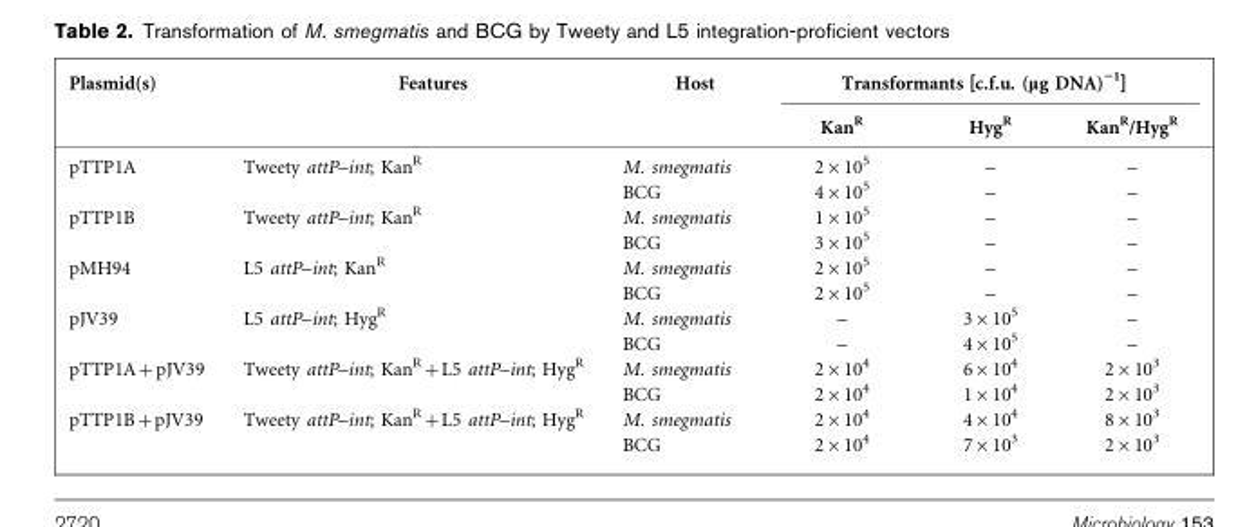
<table><thead><tr><td rowspan="2">Plasmid(s)</td><td rowspan="2">Features</td><td rowspan="2">Host</td><td colspan="3">Transformants [c.f.u. (mg DNA)”1]</td></tr><tr><td>Kan<sup>R</sup></td><td>Hyg<sup>R</sup></td><td>Kan<sup>R</sup>/Hyg<sup>R</sup></td></tr></thead><tbody><tr><td rowspan="2">pTTP1A</td><td>Tweety attP–int; Kan<sup>R</sup></td><td>M. smegmatis</td><td>2×10<sup>5</sup></td><td>–</td><td>–</td></tr><tr><td></td><td>BCG</td><td>4×10<sup>5</sup></td><td>–</td><td>–</td></tr><tr><td rowspan="2">pTTP1B</td><td>Tweety attP–int; Kan<sup>R</sup></td><td>M. smegmatis</td><td>1×10<sup>5</sup></td><td>–</td><td>–</td></tr><tr><td></td><td>BCG</td><td>3×10<sup>5</sup></td><td>–</td><td>–</td></tr><tr><td rowspan="2">pMH94</td><td>L5 attP–int; Kan<sup>R</sup></td><td>M. smegmatis</td><td>2×10<sup>5</sup></td><td>–</td><td>–</td></tr><tr><td></td><td>BCG</td><td>2×10<sup>5</sup></td><td>–</td><td>–</td></tr><tr><td rowspan="2">pJV39</td><td>L5 attP–int; Hyg<sup>R</sup></td><td>M. smegmatis</td><td>–</td><td>3×10<sup>5</sup></td><td>–</td></tr><tr><td></td><td>BCG</td><td>–</td><td>4×10<sup>5</sup></td><td>–</td></tr><tr><td rowspan="2">pTTP1A+pJV39</td><td>Tweety attP–int; Kan<sup>R</sup>+L5 attP–int; Hyg<sup>R</sup></td><td>M. smegmatis</td><td>2×10<sup>4</sup></td><td>6×10<sup>4</sup></td><td>2×10<sup>3</sup></td></tr><tr><td></td><td>BCG</td><td>2×10<sup>4</sup></td><td>1×10<sup>4</sup></td><td>2×10<sup>3</sup></td></tr><tr><td rowspan="2">pTTP1B+pJV39</td><td>Tweety attP–int; Kan<sup>R</sup>+L5 attP–int; Hyg<sup>R</sup></td><td>M. smegmatis</td><td>2×10<sup>4</sup></td><td>4×10<sup>4</sup></td><td>8×10<sup>3</sup></td></tr><tr><td></td><td>BCG</td><td>2×10<sup>4</sup></td><td>7×10<sup>3</sup></td><td>2×10<sup>3</sup></td></tr></tbody></table>